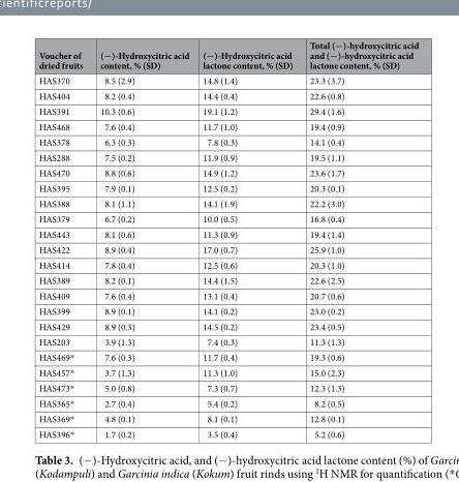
<table><thead><tr><td>Voucher of dried fruits</td><td>(−)-Hydroxycitric acid content, % (SD)</td><td>(−)-Hydroxycitric acid lactone content, % (SD)</td><td>Total (−)-hydroxycitric acid and (−)-hydroxycitric acid lactone content, % (SD)</td></tr></thead><tbody><tr><td>HAS370</td><td>8.5 (2.9)</td><td>14.8 (1.4)</td><td>23.3 (3.7)</td></tr><tr><td>HAS404</td><td>8.2 (0.4)</td><td>14.4 (0.4)</td><td>22.6 (0.8)</td></tr><tr><td>HAS391</td><td>10.3 (0.6)</td><td>19.1 (1.2)</td><td>29.4 (1.6)</td></tr><tr><td>HAS468</td><td>7.6 (0.4)</td><td>11.7 (1.0)</td><td>19.4 (0.9)</td></tr><tr><td>HAS378</td><td>6.3 (0.3)</td><td>7.8 (0.3)</td><td>14.1 (0.4)</td></tr><tr><td>HAS288</td><td>7.5 (0.2)</td><td>11.9 (0.9)</td><td>19.5 (1.1)</td></tr><tr><td>HAS470</td><td>8.8 (0.6)</td><td>14.9 (1.2)</td><td>23.6 (1.7)</td></tr><tr><td>HAS395</td><td>7.9 (0.1)</td><td>12.5 (0.2)</td><td>20.3 (0.1)</td></tr><tr><td>HAS388</td><td>8.1 (1.1)</td><td>14.1 (1.9)</td><td>22.2 (3.0)</td></tr><tr><td>HAS379</td><td>6.7 (0.2)</td><td>10.0 (0.5)</td><td>16.8 (0.4)</td></tr><tr><td>HAS443</td><td>8.1 (0.6)</td><td>11.3 (0.9)</td><td>19.4 (1.4)</td></tr><tr><td>HAS422</td><td>8.9 (0.4)</td><td>17.0 (0.7)</td><td>25.9 (1.0)</td></tr><tr><td>HAS414</td><td>7.8 (0.4)</td><td>12.5 (0.6)</td><td>20.3 (1.0)</td></tr><tr><td>HAS389</td><td>8.2 (0.1)</td><td>14.4 (1.5)</td><td>22.6 (2.5)</td></tr><tr><td>HAS409</td><td>7.6 (0.4)</td><td>13.1 (0.4)</td><td>20.7 (0.6)</td></tr><tr><td>HAS399</td><td>8.9 (0.1)</td><td>14.1 (0.2)</td><td>23.0 (0.2)</td></tr><tr><td>HAS429</td><td>8.9 (0.3)</td><td>14.5 (0.2)</td><td>23.4 (0.5)</td></tr><tr><td>HAS203</td><td>3.9 (1.3)</td><td>7.4 (0.3)</td><td>11.3 (1.3)</td></tr><tr><td>HAS469*</td><td>7.6 (0.3)</td><td>11.7 (0.4)</td><td>19.3 (0.6)</td></tr><tr><td>HAS457*</td><td>3.7 (1.3)</td><td>11.3 (1.0)</td><td>15.0 (2.3)</td></tr><tr><td>HAS473*</td><td>5.0 (0.8)</td><td>7.3 (0.7)</td><td>12.3 (1.3)</td></tr><tr><td>HAS365*</td><td>2.7 (0.4)</td><td>5.4 (0.2)</td><td>8.2 (0.5)</td></tr><tr><td>HAS369*</td><td>4.8 (0.1)</td><td>8.1 (0.1)</td><td>12.8 (0.1)</td></tr><tr><td>HAS396*</td><td>1.7 (0.2)</td><td>3.5 (0.4)</td><td>5.2 (0.6)</td></tr></tbody></table>